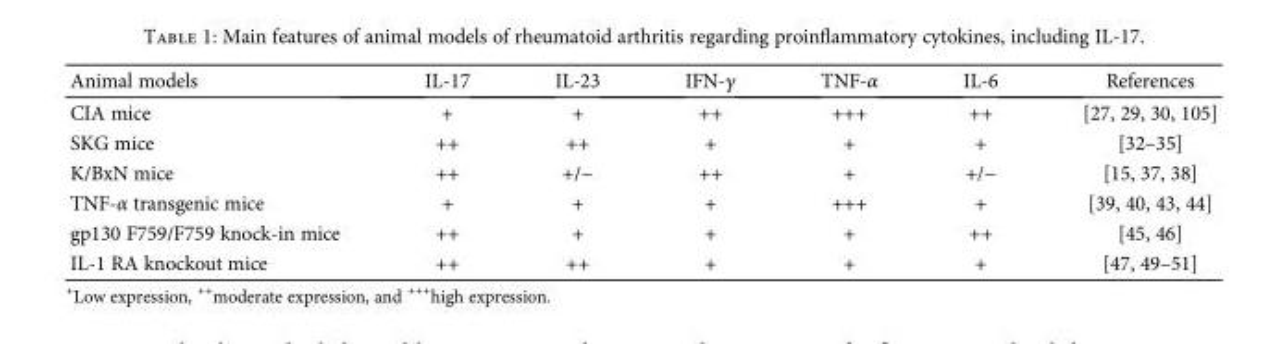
<table><thead><tr><td>Animal models</td><td>IL-17</td><td>IL-23</td><td>IFN-γ</td><td>TNF-α</td><td>IL-6</td><td>References</td></tr></thead><tbody><tr><td>CIA mice</td><td>+</td><td>+</td><td>++</td><td>+++</td><td>++</td><td>[27, 29, 30, 105]</td></tr><tr><td>SKG mice</td><td>++</td><td>++</td><td>+</td><td>+</td><td>+</td><td>[32–35]</td></tr><tr><td>K/BxN mice</td><td>++</td><td>+/−</td><td>++</td><td>+</td><td>+/−</td><td>[15, 37, 38]</td></tr><tr><td>TNF-α transgenic mice</td><td>+</td><td>+</td><td>+</td><td>+++</td><td>+</td><td>[39, 40, 43, 44]</td></tr><tr><td>gp130 F759/F759 knock-in mice</td><td>++</td><td>+</td><td>+</td><td>+</td><td>++</td><td>[45, 46]</td></tr><tr><td>IL-1 RA knockout mice</td><td>++</td><td>++</td><td>+</td><td>+</td><td>+</td><td>[47, 49–51]</td></tr></tbody></table>